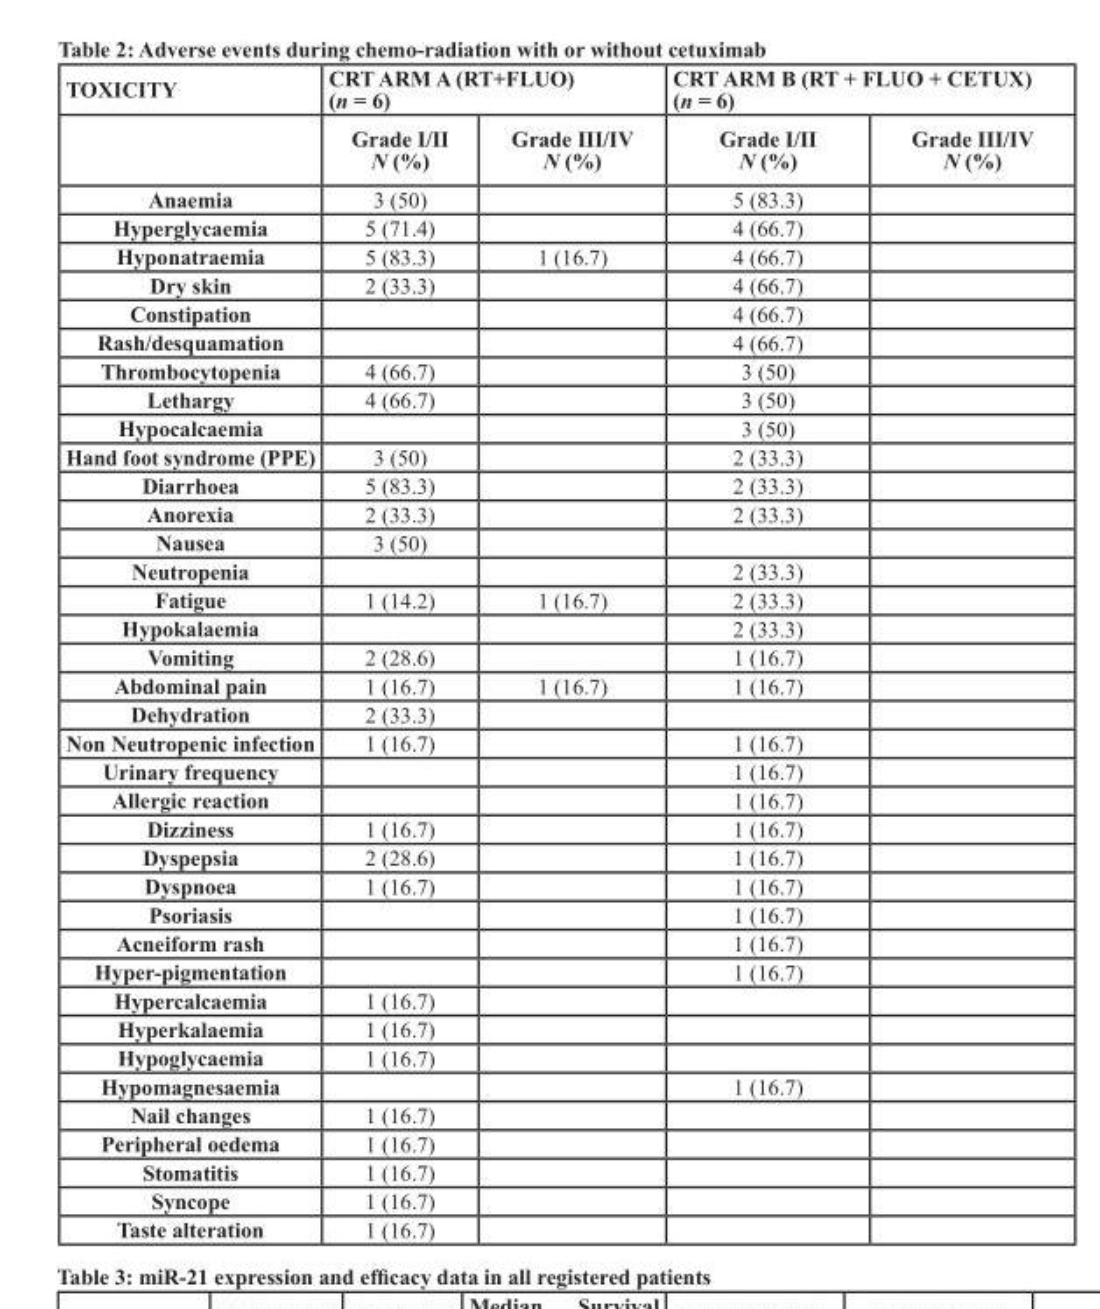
<table><thead><tr><td rowspan="2">TOXICITY</td><td colspan="2">CRT ARM A (RT+FLUO) (n = 6)</td><td colspan="2">CRT ARM B (RT + FLUO + CETUX) (n = 6)</td></tr><tr><td>Grade I/II N (%)</td><td>Grade III/IV N (%)</td><td>Grade I/II N (%)</td><td>Grade III/IV N (%)</td></tr></thead><tbody><tr><td>Anaemia</td><td>3 (50)</td><td></td><td>5 (83.3)</td><td></td></tr><tr><td>Hyperglycaemia</td><td>5 (71.4)</td><td></td><td>4 (66.7)</td><td></td></tr><tr><td>Hyponatraemia</td><td>5 (83.3)</td><td>1 (16.7)</td><td>4 (66.7)</td><td></td></tr><tr><td>Dry skin</td><td>2 (33.3)</td><td></td><td>4 (66.7)</td><td></td></tr><tr><td>Constipation</td><td></td><td></td><td>4 (66.7)</td><td></td></tr><tr><td>Rash/desquamation</td><td></td><td></td><td>4 (66.7)</td><td></td></tr><tr><td>Thrombocytopenia</td><td>4 (66.7)</td><td></td><td>3 (50)</td><td></td></tr><tr><td>Lethargy</td><td>4 (66.7)</td><td></td><td>3 (50)</td><td></td></tr><tr><td>Hypocalcaemia</td><td></td><td></td><td>3 (50)</td><td></td></tr><tr><td>Hand foot syndrome (PPE)</td><td>3 (50)</td><td></td><td>2 (33.3)</td><td></td></tr><tr><td>Diarrhoea</td><td>5 (83.3)</td><td></td><td>2 (33.3)</td><td></td></tr><tr><td>Anorexia</td><td>2 (33.3)</td><td></td><td>2 (33.3)</td><td></td></tr><tr><td>Nausea</td><td>3 (50)</td><td></td><td></td><td></td></tr><tr><td>Neutropenia</td><td></td><td></td><td>2 (33.3)</td><td></td></tr><tr><td>Fatigue</td><td>1 (14.2)</td><td>1 (16.7)</td><td>2 (33.3)</td><td></td></tr><tr><td>Hypokalaemia</td><td></td><td></td><td>2 (33.3)</td><td></td></tr><tr><td>Vomiting</td><td>2 (28.6)</td><td></td><td>1 (16.7)</td><td></td></tr><tr><td>Abdominal pain</td><td>1 (16.7)</td><td>1 (16.7)</td><td>1 (16.7)</td><td></td></tr><tr><td>Dehydration</td><td>2 (33.3)</td><td></td><td></td><td></td></tr><tr><td>Non Neutropenic infection</td><td>1 (16.7)</td><td></td><td>1 (16.7)</td><td></td></tr><tr><td>Urinary frequency</td><td></td><td></td><td>1 (16.7)</td><td></td></tr><tr><td>Allergic reaction</td><td></td><td></td><td>1 (16.7)</td><td></td></tr><tr><td>Dizziness</td><td>1 (16.7)</td><td></td><td>1 (16.7)</td><td></td></tr><tr><td>Dyspepsia</td><td>2 (28.6)</td><td></td><td>1 (16.7)</td><td></td></tr><tr><td>Dyspnoea</td><td>1 (16.7)</td><td></td><td>1 (16.7)</td><td></td></tr><tr><td>Psoriasis</td><td></td><td></td><td>1 (16.7)</td><td></td></tr><tr><td>Acneiform rash</td><td></td><td></td><td>1 (16.7)</td><td></td></tr><tr><td>Hyper-pigmentation</td><td></td><td></td><td>1 (16.7)</td><td></td></tr><tr><td>Hypercalcaemia</td><td>1 (16.7)</td><td></td><td></td><td></td></tr><tr><td>Hyperkalaemia</td><td>1 (16.7)</td><td></td><td></td><td></td></tr><tr><td>Hypoglycaemia</td><td>1 (16.7)</td><td></td><td></td><td></td></tr><tr><td>Hypomagnesaemia</td><td></td><td></td><td>1 (16.7)</td><td></td></tr><tr><td>Nail changes</td><td>1 (16.7)</td><td></td><td></td><td></td></tr><tr><td>Peripheral oedema</td><td>1 (16.7)</td><td></td><td></td><td></td></tr><tr><td>Stomatitis</td><td>1 (16.7)</td><td></td><td></td><td></td></tr><tr><td>Syncope</td><td>1 (16.7)</td><td></td><td></td><td></td></tr><tr><td>Taste alteration</td><td>1 (16.7)</td><td></td><td></td><td></td></tr></tbody></table>